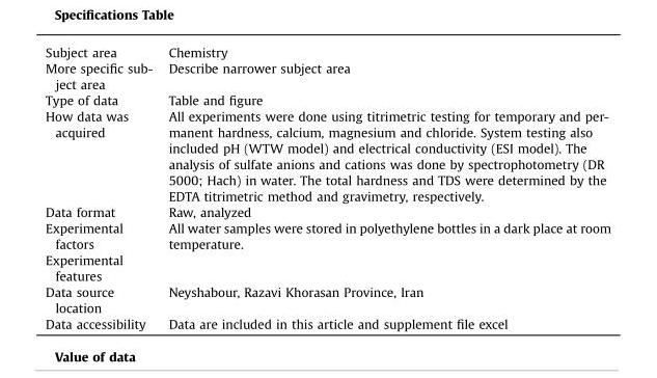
<table><tbody><tr><td>Subject area</td><td>Chemistry</td></tr><tr><td>More specific sub- ject area</td><td>Describe narrower subject area</td></tr><tr><td>Type of data</td><td>Table and figure</td></tr><tr><td>How data was acquired</td><td>All experiments were done using titrimetric testing for temporary and per- manent hardness, calcium, magnesium and chloride. System testing also included pH (WTW model) and electrical conductivity (ESI model). The analysis of sulfate anions and cations was done by spectrophotometry (DR 5000; Hach) in water. The total hardness and TDS were determined by the EDTA titrimetric method and gravimetry, respectively.</td></tr><tr><td>Data format</td><td>Raw, analyzed</td></tr><tr><td>Experimental factors</td><td>All water samples were stored in polyethylene bottles in a dark place at room temperature.</td></tr><tr><td colspan="2">Experimental features</td></tr><tr><td>Data source location</td><td>Neyshabour, Razavi Khorasan Province, Iran</td></tr><tr><td>Data accessibility</td><td>Data are included in this article and supplement file excel</td></tr></tbody></table>